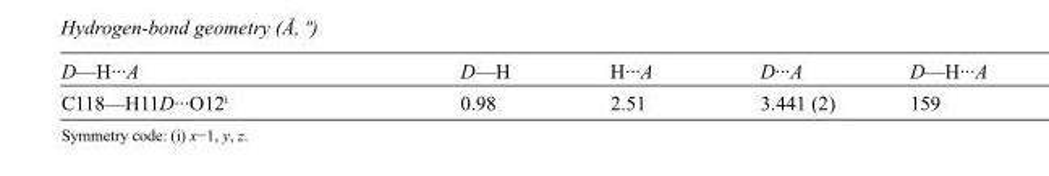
<table><tbody><tr><td>D—H···A</td><td>D—H</td><td>H···A</td><td>D···A</td><td>D—H···A</td></tr><tr><td>C118—H11D···O12<sup>i</sup></td><td>0.98</td><td>2.51</td><td>3.441 (2)</td><td>159</td></tr></tbody></table>